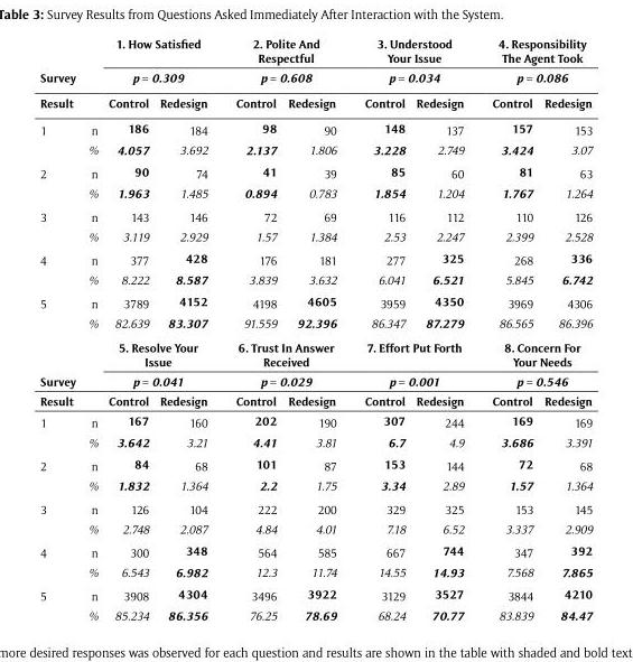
<table><thead><tr><td rowspan="3">Survey Result</td><td rowspan="3"></td><td rowspan="2" colspan="2">1. How Satisfied p = 0.309</td><td rowspan="2" colspan="2">2. Polite And Respectful p = 0.608</td><td rowspan="2" colspan="2">3. Understood Your Issue p = 0.034</td><td rowspan="2" colspan="2">4. Responsibility The Agent Took p = 0.086</td></tr><tr></tr><tr><td>Control</td><td>Redesign</td><td>Control</td><td>Redesign</td><td>Control</td><td>Redesign</td><td>Control</td><td>Redesign</td></tr></thead><tbody><tr><td rowspan="2">1</td><td>n</td><td>186</td><td>184</td><td>98</td><td>90</td><td>148</td><td>137</td><td>157</td><td>153</td></tr><tr><td>%</td><td>4.057</td><td>3.692</td><td>2.137</td><td>1.806</td><td>3.228</td><td>2.749</td><td>3.424</td><td>3.07</td></tr><tr><td rowspan="2">2</td><td>n</td><td>90</td><td>74</td><td>41</td><td>39</td><td>85</td><td>60</td><td>81</td><td>63</td></tr><tr><td>%</td><td>1.963</td><td>1.485</td><td>0.894</td><td>0.783</td><td>1.854</td><td>1.204</td><td>1.767</td><td>1.264</td></tr><tr><td rowspan="2">3</td><td>n</td><td>143</td><td>146</td><td>72</td><td>69</td><td>116</td><td>112</td><td>110</td><td>126</td></tr><tr><td>%</td><td>3.119</td><td>2.929</td><td>1.57</td><td>1.384</td><td>2.53</td><td>2.247</td><td>2.399</td><td>2.528</td></tr><tr><td rowspan="2">4</td><td>n</td><td>377</td><td>428</td><td>176</td><td>181</td><td>277</td><td>325</td><td>268</td><td>336</td></tr><tr><td>%</td><td>8.222</td><td>8.587</td><td>3.839</td><td>3.632</td><td>6.041</td><td>6.521</td><td>5.845</td><td>6.742</td></tr><tr><td rowspan="2">5</td><td>n</td><td>3789</td><td>4152</td><td>4198</td><td>4605</td><td>3959</td><td>4350</td><td>3969</td><td>4306</td></tr><tr><td>%</td><td>82.639</td><td>83.307</td><td>91.559</td><td>92.396</td><td>86.347</td><td>87.279</td><td>86.565</td><td>86.396</td></tr><tr><td colspan="2"></td><td colspan="2">5. Resolve Your Issue</td><td colspan="2">6. Trust In Answer Received</td><td colspan="2">7. Effort Put Forth</td><td colspan="2">8. Concern For Your Needs</td></tr><tr><td>Survey</td><td></td><td colspan="2">p = 0.041</td><td colspan="2">p = 0.029</td><td colspan="2">p = 0.001</td><td colspan="2">p = 0.546</td></tr><tr><td>Result</td><td></td><td>Control</td><td>Redesign</td><td>Control</td><td>Redesign</td><td>Control</td><td>Redesign</td><td>Control</td><td>Redesign</td></tr><tr><td rowspan="2">1</td><td>n</td><td>167</td><td>160</td><td>202</td><td>190</td><td>307</td><td>244</td><td>169</td><td>169</td></tr><tr><td>%</td><td>3.642</td><td>3.21</td><td>4.41</td><td>3.81</td><td>6.7</td><td>4.9</td><td>3.686</td><td>3.391</td></tr><tr><td rowspan="2">2</td><td>n</td><td>84</td><td>68</td><td>101</td><td>87</td><td>153</td><td>144</td><td>72</td><td>68</td></tr><tr><td>%</td><td>1.832</td><td>1.364</td><td>2.2</td><td>1.75</td><td>3.34</td><td>2.89</td><td>1.57</td><td>1.364</td></tr><tr><td rowspan="2">3</td><td>n</td><td>126</td><td>104</td><td>222</td><td>200</td><td>329</td><td>325</td><td>153</td><td>145</td></tr><tr><td>%</td><td>2.748</td><td>2.087</td><td>4.84</td><td>4.01</td><td>7.18</td><td>6.52</td><td>3.337</td><td>2.909</td></tr><tr><td rowspan="2">4</td><td>n</td><td>300</td><td>348</td><td>564</td><td>585</td><td>667</td><td>744</td><td>347</td><td>392</td></tr><tr><td>%</td><td>6.543</td><td>6.982</td><td>12.3</td><td>11.74</td><td>14.55</td><td>14.93</td><td>7.568</td><td>7.865</td></tr><tr><td rowspan="2">5</td><td>n</td><td>3908</td><td>4304</td><td>3496</td><td>3922</td><td>3129</td><td>3527</td><td>3844</td><td>4210</td></tr><tr><td>%</td><td>85.234</td><td>86.356</td><td>76.25</td><td>78.69</td><td>68.24</td><td>70.77</td><td>83.839</td><td>84.47</td></tr></tbody></table>